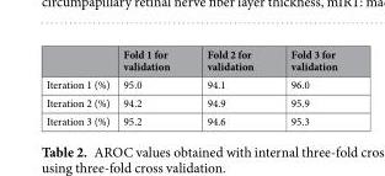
<table><thead><tr><td></td><td>Fold 1 for validation</td><td>Fold 2 for validation</td><td>Fold 3 for validation</td></tr></thead><tbody><tr><td>Iteration 1 (%)</td><td>95.0</td><td>94.1</td><td>96.0</td></tr><tr><td>Iteration 2 (%)</td><td>94.2</td><td>94.9</td><td>95.9</td></tr><tr><td>Iteration 3 (%)</td><td>95.2</td><td>94.6</td><td>95.3</td></tr></tbody></table>